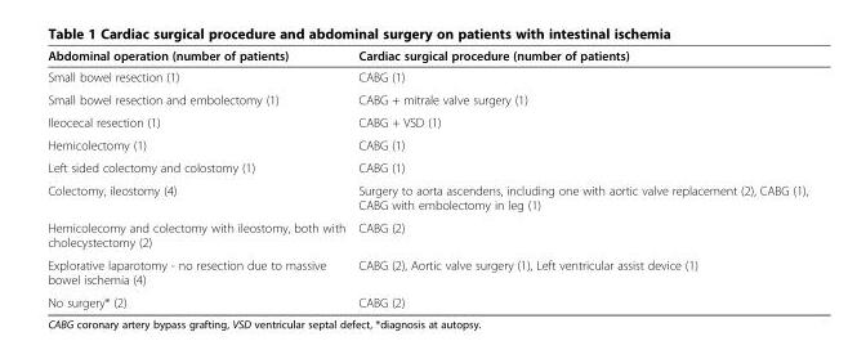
<table><thead><tr><td>Abdominal operation (number of patients)</td><td>Cardiac surgical procedure (number of patients)</td></tr></thead><tbody><tr><td>Small bowel resection (1)</td><td>CABG (1)</td></tr><tr><td>Small bowel resection and embolectomy (1)</td><td>CABG + mitrale valve surgery (1)</td></tr><tr><td>Ileocecal resection (1)</td><td>CABG + VSD (1)</td></tr><tr><td>Hemicolectomy (1)</td><td>CABG (1)</td></tr><tr><td>Left sided colectomy and colostomy (1)</td><td>CABG (1)</td></tr><tr><td>Colectomy, ileostomy (4)</td><td>Surgery to aorta ascendens, including one with aortic valve replacement (2), CABG (1), CABG with embolectomy in leg (1)</td></tr><tr><td>Hemicolecomy and colectomy with ileostomy, both with cholecystectomy (2)</td><td>CABG (2)</td></tr><tr><td>Explorative laparotomy - no resection due to massive bowel ischemia (4)</td><td>CABG (2), Aortic valve surgery (1), Left ventricular assist device (1)</td></tr><tr><td>No surgery* (2)</td><td>CABG (2)</td></tr></tbody></table>